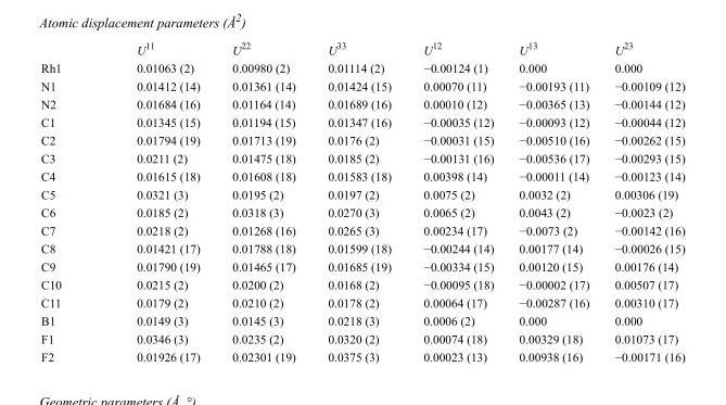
<table><thead><tr><td></td><td>U<sup>11</sup></td><td>U<sup>22</sup></td><td>U<sup>33</sup></td><td>U<sup>12</sup></td><td>U<sup>13</sup></td><td>U<sup>23</sup></td></tr></thead><tbody><tr><td>Rh1</td><td>0.01063 (2)</td><td>0.00980 (2)</td><td>0.01114 (2)</td><td>−0.00124 (1)</td><td>0.000</td><td>0.000</td></tr><tr><td>N1</td><td>0.01412 (14)</td><td>0.01361 (14)</td><td>0.01424 (15)</td><td>0.00070 (11)</td><td>−0.00193 (11)</td><td>−0.00109 (12)</td></tr><tr><td>N2</td><td>0.01684 (16)</td><td>0.01164 (14)</td><td>0.01689 (16)</td><td>0.00010 (12)</td><td>−0.00365 (13)</td><td>−0.00144 (12)</td></tr><tr><td>C1</td><td>0.01345 (15)</td><td>0.01194 (15)</td><td>0.01347 (16)</td><td>−0.00035 (12)</td><td>−0.00093 (12)</td><td>−0.00044 (12)</td></tr><tr><td>C2</td><td>0.01794 (19)</td><td>0.01713 (19)</td><td>0.0176 (2)</td><td>−0.00031 (15)</td><td>−0.00510 (16)</td><td>−0.00262 (15)</td></tr><tr><td>C3</td><td>0.0211 (2)</td><td>0.01475 (18)</td><td>0.0185 (2)</td><td>−0.00131 (16)</td><td>−0.00536 (17)</td><td>−0.00293 (15)</td></tr><tr><td>C4</td><td>0.01615 (18)</td><td>0.01608 (18)</td><td>0.01583 (18)</td><td>0.00398 (14)</td><td>−0.00011 (14)</td><td>−0.00123 (14)</td></tr><tr><td>C5</td><td>0.0321 (3)</td><td>0.0195 (2)</td><td>0.0197 (2)</td><td>0.0075 (2)</td><td>0.0032 (2)</td><td>0.00306 (19)</td></tr><tr><td>C6</td><td>0.0185 (2)</td><td>0.0318 (3)</td><td>0.0270 (3)</td><td>0.0065 (2)</td><td>0.0043 (2)</td><td>−0.0023 (2)</td></tr><tr><td>C7</td><td>0.0218 (2)</td><td>0.01268 (16)</td><td>0.0265 (3)</td><td>0.00234 (17)</td><td>−0.0073 (2)</td><td>−0.00142 (16)</td></tr><tr><td>C8</td><td>0.01421 (17)</td><td>0.01788 (18)</td><td>0.01599 (18)</td><td>−0.00244 (14)</td><td>0.00177 (14)</td><td>−0.00026 (15)</td></tr><tr><td>C9</td><td>0.01790 (19)</td><td>0.01465 (17)</td><td>0.01685 (19)</td><td>−0.00334 (15)</td><td>0.00120 (15)</td><td>0.00176 (14)</td></tr><tr><td>C10</td><td>0.0215 (2)</td><td>0.0200 (2)</td><td>0.0168 (2)</td><td>−0.00095 (18)</td><td>−0.00002 (17)</td><td>0.00507 (17)</td></tr><tr><td>C11</td><td>0.0179 (2)</td><td>0.0210 (2)</td><td>0.0178 (2)</td><td>0.00064 (17)</td><td>−0.00287 (16)</td><td>0.00310 (17)</td></tr><tr><td>B1</td><td>0.0149 (3)</td><td>0.0145 (3)</td><td>0.0218 (3)</td><td>0.0006 (2)</td><td>0.000</td><td>0.000</td></tr><tr><td>F1</td><td>0.0346 (3)</td><td>0.0235 (2)</td><td>0.0320 (2)</td><td>0.00074 (18)</td><td>0.00329 (18)</td><td>0.01073 (17)</td></tr><tr><td>F2</td><td>0.01926 (17)</td><td>0.02301 (19)</td><td>0.0375 (3)</td><td>0.00023 (13)</td><td>0.00938 (16)</td><td>−0.00171 (16)</td></tr></tbody></table>